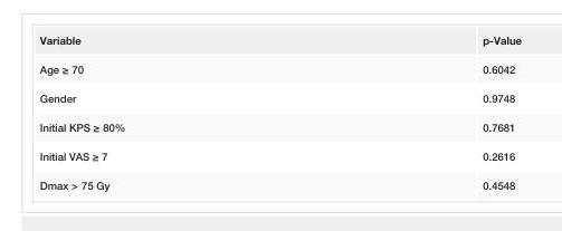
<table><tbody><tr><td>Variable</td><td>p-Value</td></tr><tr><td>Age ≥ 70</td><td>0.6042</td></tr><tr><td>Gender</td><td>0.9748</td></tr><tr><td>Initial KPS ≥ 80%</td><td>0.7681</td></tr><tr><td>Initial VAS ≥ 7</td><td>0.2616</td></tr><tr><td>Dmax &gt; 75 Gy</td><td>0.4548</td></tr></tbody></table>